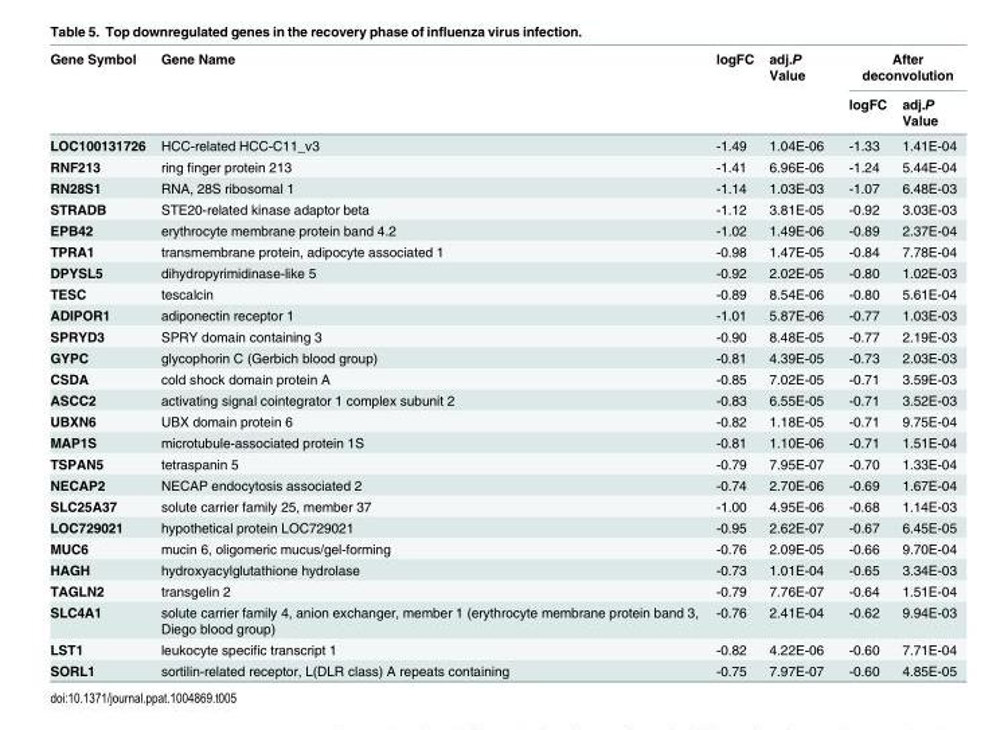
<table><thead><tr><td rowspan="2">Gene Symbol</td><td rowspan="2">Gene Name</td><td rowspan="2">logFC</td><td rowspan="2">adj.P Value</td><td colspan="2">After deconvolution</td></tr><tr><td>logFC</td><td>adj.P Value</td></tr></thead><tbody><tr><td>LOC100131726</td><td>HCC-related HCC-C11_v3</td><td>-1.49</td><td>1.04E-06</td><td>-1.33</td><td>1.41E-04</td></tr><tr><td>RNF213</td><td>ring finger protein 213</td><td>-1.41</td><td>6.96E-06</td><td>-1.24</td><td>5.44E-04</td></tr><tr><td>RN28S1</td><td>RNA, 28S ribosomal 1</td><td>-1.14</td><td>1.03E-03</td><td>-1.07</td><td>6.48E-03</td></tr><tr><td>STRADB</td><td>STE20-related kinase adaptor beta</td><td>-1.12</td><td>3.81E-05</td><td>-0.92</td><td>3.03E-03</td></tr><tr><td>EPB42</td><td>erythrocyte membrane protein band 4.2</td><td>-1.02</td><td>1.49E-06</td><td>-0.89</td><td>2.37E-04</td></tr><tr><td>TPRA1</td><td>transmembrane protein, adipocyte associated 1</td><td>-0.98</td><td>1.47E-05</td><td>-0.84</td><td>7.78E-04</td></tr><tr><td>DPYSL5</td><td>dihydropyrimidinase-like 5</td><td>-0.92</td><td>2.02E-05</td><td>-0.80</td><td>1.02E-03</td></tr><tr><td>TESC</td><td>tescalcin</td><td>-0.89</td><td>8.54E-06</td><td>-0.80</td><td>5.61E-04</td></tr><tr><td>ADIPOR1</td><td>adiponectin receptor 1</td><td>-1.01</td><td>5.87E-06</td><td>-0.77</td><td>1.03E-03</td></tr><tr><td>SPRYD3</td><td>SPRY domain containing 3</td><td>-0.90</td><td>8.48E-05</td><td>-0.77</td><td>2.19E-03</td></tr><tr><td>GYPC</td><td>glycophorin C (Gerbich blood group)</td><td>-0.81</td><td>4.39E-05</td><td>-0.73</td><td>2.03E-03</td></tr><tr><td>CSDA</td><td>cold shock domain protein A</td><td>-0.85</td><td>7.02E-05</td><td>-0.71</td><td>3.59E-03</td></tr><tr><td>ASCC2</td><td>activating signal cointegrator 1 complex subunit 2</td><td>-0.83</td><td>6.55E-05</td><td>-0.71</td><td>3.52E-03</td></tr><tr><td>UBXN6</td><td>UBX domain protein 6</td><td>-0.82</td><td>1.18E-05</td><td>-0.71</td><td>9.75E-04</td></tr><tr><td>MAP1S</td><td>microtubule-associated protein 1S</td><td>-0.81</td><td>1.10E-06</td><td>-0.71</td><td>1.51E-04</td></tr><tr><td>TSPAN5</td><td>tetraspanin 5</td><td>-0.79</td><td>7.95E-07</td><td>-0.70</td><td>1.33E-04</td></tr><tr><td>NECAP2</td><td>NECAP endocytosis associated 2</td><td>-0.74</td><td>2.70E-06</td><td>-0.69</td><td>1.67E-04</td></tr><tr><td>SLC25A37</td><td>solute carrier family 25, member 37</td><td>-1.00</td><td>4.95E-06</td><td>-0.68</td><td>1.14E-03</td></tr><tr><td>LOC729021</td><td>hypothetical protein LOC729021</td><td>-0.95</td><td>2.62E-07</td><td>-0.67</td><td>6.45E-05</td></tr><tr><td>MUC6</td><td>mucin 6, oligomeric mucus/gel-forming</td><td>-0.76</td><td>2.09E-05</td><td>-0.66</td><td>9.70E-04</td></tr><tr><td>HAGH</td><td>hydroxyacylglutathione hydrolase</td><td>-0.73</td><td>1.01E-04</td><td>-0.65</td><td>3.34E-03</td></tr><tr><td>TAGLN2</td><td>transgelin 2</td><td>-0.79</td><td>7.76E-07</td><td>-0.64</td><td>1.51E-04</td></tr><tr><td>SLC4A1</td><td>solute carrier family 4, anion exchanger, member 1 (erythrocyte membrane protein band 3, Diego blood group)</td><td>-0.76</td><td>2.41E-04</td><td>-0.62</td><td>9.94E-03</td></tr><tr><td>LST1</td><td>leukocyte specific transcript 1</td><td>-0.82</td><td>4.22E-06</td><td>-0.60</td><td>7.71E-04</td></tr><tr><td>SORL1</td><td>sortilin-related receptor, L(DLR class) A repeats containing</td><td>-0.75</td><td>7.97E-07</td><td>-0.60</td><td>4.85E-05</td></tr></tbody></table>